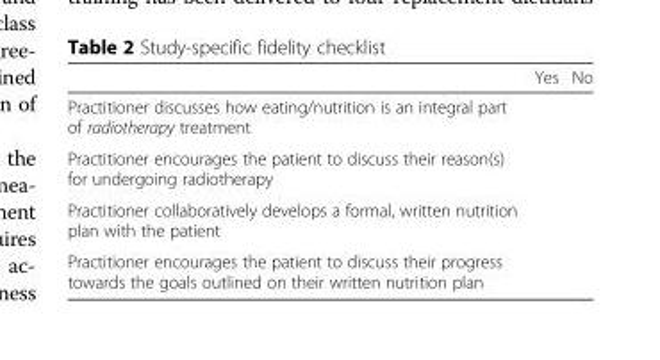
<table><thead><tr><td></td><td>Yes</td><td>No</td></tr></thead><tbody><tr><td colspan="3">Practitioner discusses how eating/nutrition is an integral part of radiotherapy treatment</td></tr><tr><td colspan="3">Practitioner encourages the patient to discuss their reason(s) for undergoing radiotherapy</td></tr><tr><td colspan="3">Practitioner collaboratively develops a formal, written nutrition plan with the patient</td></tr><tr><td>Practitioner encourages the patient to discuss their progress towards the goals outlined on their written nutrition plan</td><td></td><td></td></tr></tbody></table>